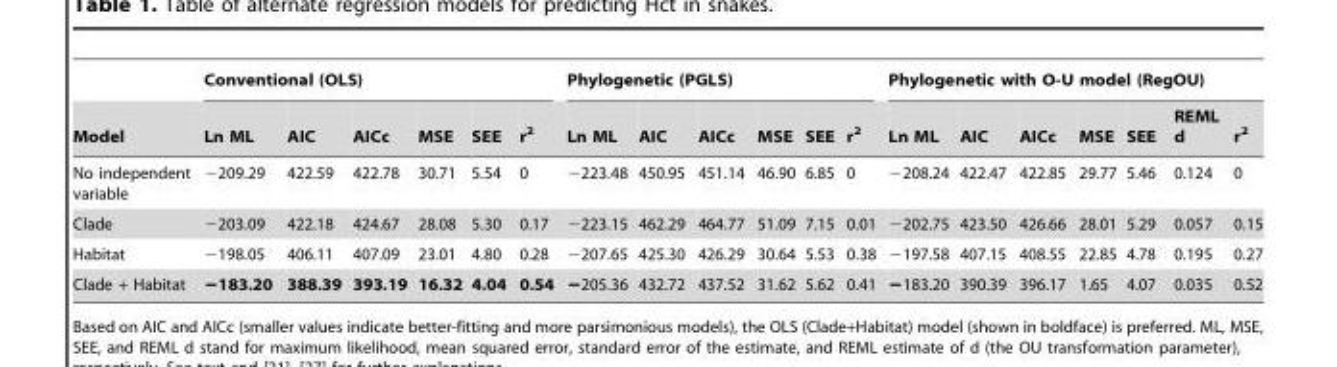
<table><thead><tr><td rowspan="2">Model</td><td colspan="6">Conventional (OLS)</td><td colspan="6">Phylogenetic (PGLS)</td><td colspan="7">Phylogenetic with O-U model (RegOU)</td></tr><tr><td>Ln ML</td><td>AIC</td><td>AICc</td><td>MSE</td><td>SEE</td><td>r<sup>2</sup></td><td>Ln ML</td><td>AIC</td><td>AICc</td><td>MSE</td><td>SEE</td><td>r<sup>2</sup></td><td>Ln ML</td><td>AIC</td><td>AICc</td><td>MSE</td><td>SEE</td><td>REML d</td><td>r<sup>2</sup></td></tr></thead><tbody><tr><td>No independent variable</td><td>−209.29</td><td>422.59</td><td>422.78</td><td>30.71</td><td>5.54</td><td>0</td><td>−223.48</td><td>450.95</td><td>451.14</td><td>46.90</td><td>6.85</td><td>0</td><td>−208.24</td><td>422.47</td><td>422.85</td><td>29.77</td><td>5.46</td><td>0.124</td><td>0</td></tr><tr><td>Clade</td><td>−203.09</td><td>422.18</td><td>424.67</td><td>28.08</td><td>5.30</td><td>0.17</td><td>−223.15</td><td>462.29</td><td>464.77</td><td>51.09</td><td>7.15</td><td>0.01</td><td>−202.75</td><td>423.50</td><td>426.66</td><td>28.01</td><td>5.29</td><td>0.057</td><td>0.15</td></tr><tr><td>Habitat</td><td>−198.05</td><td>406.11</td><td>407.09</td><td>23.01</td><td>4.80</td><td>0.28</td><td>−207.65</td><td>425.30</td><td>426.29</td><td>30.64</td><td>5.53</td><td>0.38</td><td>−197.58</td><td>407.15</td><td>408.55</td><td>22.85</td><td>4.78</td><td>0.195</td><td>0.27</td></tr><tr><td>Clade + Habitat</td><td>−183.20</td><td>388.39</td><td>393.19</td><td>16.32</td><td>4.04</td><td>0.54</td><td>−205.36</td><td>432.72</td><td>437.52</td><td>31.62</td><td>5.62</td><td>0.41</td><td>−183.20</td><td>390.39</td><td>396.17</td><td>1.65</td><td>4.07</td><td>0.035</td><td>0.52</td></tr></tbody></table>